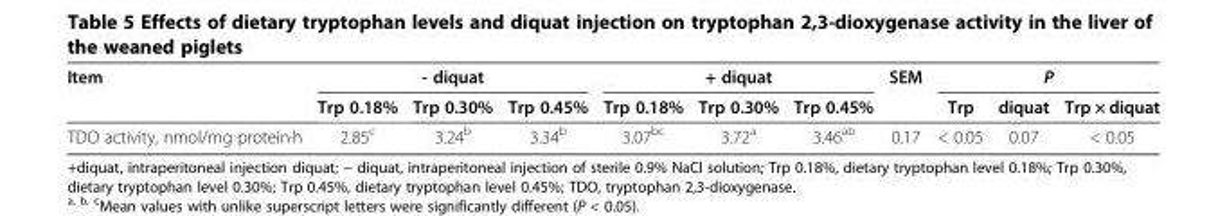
<table><thead><tr><td rowspan="2">Item</td><td colspan="3">- diquat</td><td colspan="3">+ diquat</td><td rowspan="2">SEM</td><td colspan="3">P</td></tr><tr><td>Trp 0.18%</td><td>Trp 0.30%</td><td>Trp 0.45%</td><td>Trp 0.18%</td><td>Trp 0.30%</td><td>Trp 0.45%</td><td>Trp</td><td>diquat</td><td>Trp × diquat</td></tr></thead><tbody><tr><td>TDO activity, nmol/mg protein·h</td><td>2.85<sup>c</sup></td><td>3.24<sup>b</sup></td><td>3.34<sup>b</sup></td><td>3.07<sup>bc</sup></td><td>3.72<sup>a</sup></td><td>3.46<sup>ab</sup></td><td>0.17</td><td>&lt; 0.05</td><td>0.07</td><td>&lt; 0.05</td></tr></tbody></table>